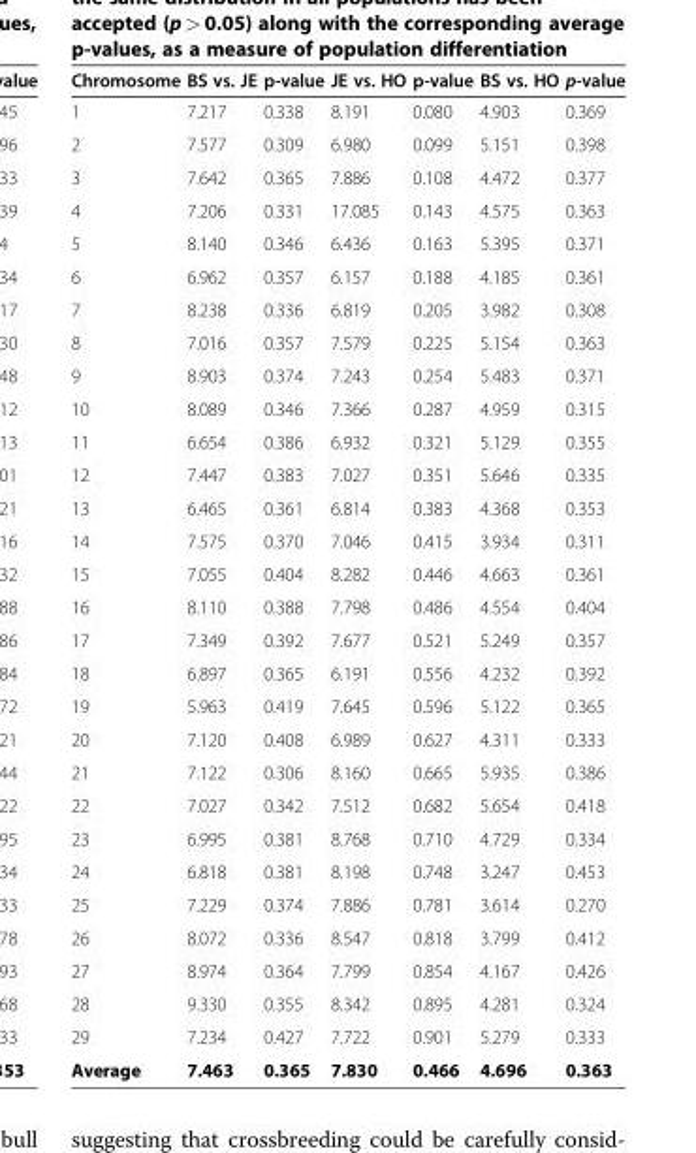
<table><thead><tr><td>Chromosome</td><td>BS vs. JE</td><td>p-value</td><td>JE vs. HO</td><td>p-value</td><td>BS vs. HO</td><td>p-value</td></tr></thead><tbody><tr><td>1</td><td>7.217</td><td>0.338</td><td>8.191</td><td>0.080</td><td>4.903</td><td>0.369</td></tr><tr><td>2</td><td>7.577</td><td>0.309</td><td>6.980</td><td>0.099</td><td>5.151</td><td>0.398</td></tr><tr><td>3</td><td>7.642</td><td>0.365</td><td>7.886</td><td>0.108</td><td>4.472</td><td>0.377</td></tr><tr><td>4</td><td>7.206</td><td>0.331</td><td>17.085</td><td>0.143</td><td>4.575</td><td>0.363</td></tr><tr><td>5</td><td>8.140</td><td>0.346</td><td>6.436</td><td>0.163</td><td>5.395</td><td>0.371</td></tr><tr><td>6</td><td>6.962</td><td>0.357</td><td>6.157</td><td>0.188</td><td>4.185</td><td>0.361</td></tr><tr><td>7</td><td>8.238</td><td>0.336</td><td>6.819</td><td>0.205</td><td>3.982</td><td>0.308</td></tr><tr><td>8</td><td>7.016</td><td>0.357</td><td>7.579</td><td>0.225</td><td>5.154</td><td>0.363</td></tr><tr><td>9</td><td>8.903</td><td>0.374</td><td>7.243</td><td>0.254</td><td>5.483</td><td>0.371</td></tr><tr><td>10</td><td>8.089</td><td>0.346</td><td>7.366</td><td>0.287</td><td>4.959</td><td>0.315</td></tr><tr><td>11</td><td>6.654</td><td>0.386</td><td>6.932</td><td>0.321</td><td>5.129</td><td>0.355</td></tr><tr><td>12</td><td>7.447</td><td>0.383</td><td>7.027</td><td>0.351</td><td>5.646</td><td>0.335</td></tr><tr><td>13</td><td>6.465</td><td>0.361</td><td>6.814</td><td>0.383</td><td>4.368</td><td>0.353</td></tr><tr><td>14</td><td>7.575</td><td>0.370</td><td>7.046</td><td>0.415</td><td>3.934</td><td>0.311</td></tr><tr><td>15</td><td>7.055</td><td>0.404</td><td>8.282</td><td>0.446</td><td>4.663</td><td>0.361</td></tr><tr><td>16</td><td>8.110</td><td>0.388</td><td>7.798</td><td>0.486</td><td>4.554</td><td>0.404</td></tr><tr><td>17</td><td>7.349</td><td>0.392</td><td>7.677</td><td>0.521</td><td>5.249</td><td>0.357</td></tr><tr><td>18</td><td>6.897</td><td>0.365</td><td>6.191</td><td>0.556</td><td>4.232</td><td>0.392</td></tr><tr><td>19</td><td>5.963</td><td>0.419</td><td>7.645</td><td>0.596</td><td>5.122</td><td>0.365</td></tr><tr><td>20</td><td>7.120</td><td>0.408</td><td>6.989</td><td>0.627</td><td>4.311</td><td>0.333</td></tr><tr><td>21</td><td>7.122</td><td>0.306</td><td>8.160</td><td>0.665</td><td>5.935</td><td>0.386</td></tr><tr><td>22</td><td>7.027</td><td>0.342</td><td>7.512</td><td>0.682</td><td>5.654</td><td>0.418</td></tr><tr><td>23</td><td>6.995</td><td>0.381</td><td>8.768</td><td>0.710</td><td>4.729</td><td>0.334</td></tr><tr><td>24</td><td>6.818</td><td>0.381</td><td>8.198</td><td>0.748</td><td>3.247</td><td>0.453</td></tr><tr><td>25</td><td>7.229</td><td>0.374</td><td>7.886</td><td>0.781</td><td>3.614</td><td>0.270</td></tr><tr><td>26</td><td>8.072</td><td>0.336</td><td>8.547</td><td>0.818</td><td>3.799</td><td>0.412</td></tr><tr><td>27</td><td>8.974</td><td>0.364</td><td>7.799</td><td>0.854</td><td>4.167</td><td>0.426</td></tr><tr><td>28</td><td>9.330</td><td>0.355</td><td>8.342</td><td>0.895</td><td>4.281</td><td>0.324</td></tr><tr><td>29</td><td>7.234</td><td>0.427</td><td>7.722</td><td>0.901</td><td>5.279</td><td>0.333</td></tr><tr><td>Average</td><td>7.463</td><td>0.365</td><td>7.830</td><td>0.466</td><td>4.696</td><td>0.363</td></tr></tbody></table>